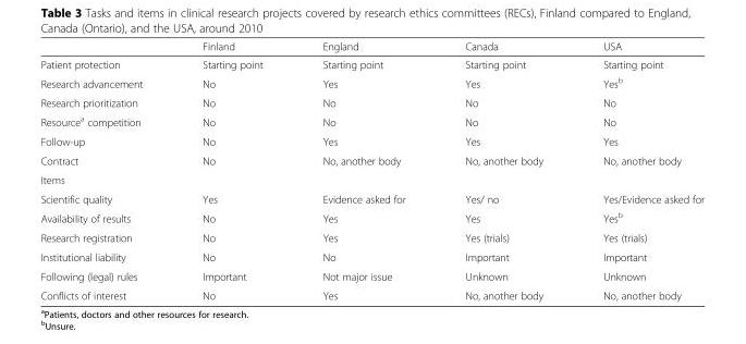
<table><thead><tr><td></td><td>Finland</td><td>England</td><td>Canada</td><td>USA</td></tr></thead><tbody><tr><td>Patient protection</td><td>Starting point</td><td>Starting point</td><td>Starting point</td><td>Starting point</td></tr><tr><td>Research advancement</td><td>No</td><td>Yes</td><td>Yes</td><td>Yes<sup>b</sup></td></tr><tr><td>Research prioritization</td><td>No</td><td>No</td><td>No</td><td>No</td></tr><tr><td>Resource<sup>a</sup> competition</td><td>No</td><td>No</td><td>No</td><td>No</td></tr><tr><td>Follow-up</td><td>No</td><td>Yes</td><td>Yes</td><td>Yes</td></tr><tr><td>Contract</td><td>No</td><td>No, another body</td><td>No, another body</td><td>No, another body</td></tr><tr><td colspan="5">Items</td></tr><tr><td>Scientific quality</td><td>Yes</td><td>Evidence asked for</td><td>Yes/ no</td><td>Yes/Evidence asked for</td></tr><tr><td>Availability of results</td><td>No</td><td>Yes</td><td>Yes</td><td>Yes<sup>b</sup></td></tr><tr><td>Research registration</td><td>No</td><td>Yes</td><td>Yes (trials)</td><td>Yes (trials)</td></tr><tr><td>Institutional liability</td><td>No</td><td>No</td><td>Important</td><td>Important</td></tr><tr><td>Following (legal) rules</td><td>Important</td><td>Not major issue</td><td>Unknown</td><td>Unknown</td></tr><tr><td>Conflicts of interest</td><td>No</td><td>Yes</td><td>No, another body</td><td>No, another body</td></tr></tbody></table>